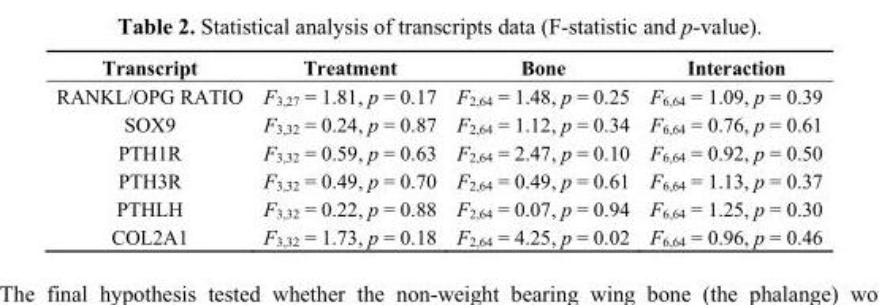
<table><thead><tr><td>Transcript</td><td>Treatment</td><td>Bone</td><td>Interaction</td></tr></thead><tbody><tr><td>RANKL/OPG RATIO</td><td>F<sub>3,27</sub> = 1.81, p = 0.17</td><td>F<sub>2,64</sub> = 1.48, p = 0.25</td><td>F<sub>6,64</sub> = 1.09, p = 0.39</td></tr><tr><td>SOX9</td><td>F<sub>3,32</sub> = 0.24, p = 0.87</td><td>F<sub>2,64</sub> = 1.12, p = 0.34</td><td>F<sub>6,64</sub> = 0.76, p = 0.61</td></tr><tr><td>PTH1R</td><td>F<sub>3,32</sub> = 0.59, p = 0.63</td><td>F<sub>2,64</sub> = 2.47, p = 0.10</td><td>F<sub>6,64</sub> = 0.92, p = 0.50</td></tr><tr><td>PTH3R</td><td>F<sub>3,32</sub> = 0.49, p = 0.70</td><td>F<sub>2,64</sub> = 0.49, p = 0.61</td><td>F<sub>6,64</sub> = 1.13, p = 0.37</td></tr><tr><td>PTHLH</td><td>F<sub>3,32</sub> = 0.22, p = 0.88</td><td>F<sub>2,64</sub> = 0.07, p = 0.94</td><td>F<sub>6,64</sub> = 1.25, p = 0.30</td></tr><tr><td>COL2A1</td><td>F<sub>3,32</sub> = 1.73, p = 0.18</td><td>F<sub>2,64</sub> = 4.25, p = 0.02</td><td>F<sub>6,64</sub> = 0.96, p = 0.46</td></tr></tbody></table>